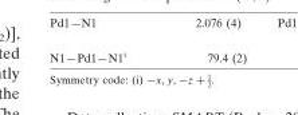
<table><tbody><tr><td>N1—Pd1—N1<sup>i</sup></td><td>79.4 (2)</td></tr></tbody></table>